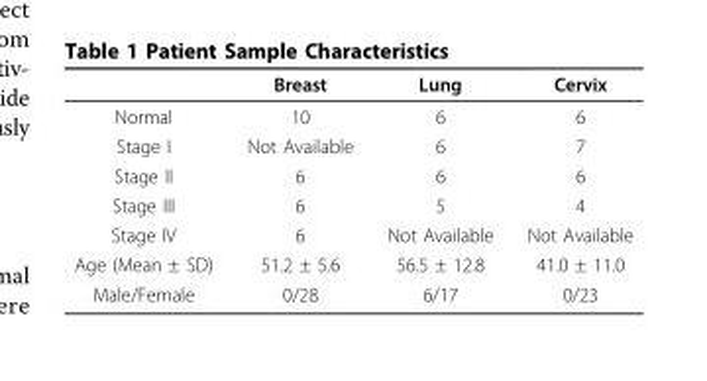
<table><thead><tr><td></td><td>Breast</td><td>Lung</td><td>Cervix</td></tr></thead><tbody><tr><td>Normal</td><td>10</td><td>6</td><td>6</td></tr><tr><td>Stage I</td><td>Not Available</td><td>6</td><td>7</td></tr><tr><td>Stage II</td><td>6</td><td>6</td><td>6</td></tr><tr><td>Stage III</td><td>6</td><td>5</td><td>4</td></tr><tr><td>Stage IV</td><td>6</td><td>Not Available</td><td>Not Available</td></tr><tr><td>Age (Mean ± SD)</td><td>51.2 ± 5.6</td><td>56.5 ± 12.8</td><td>41.0 ± 11.0</td></tr><tr><td>Male/Female</td><td>0/28</td><td>6/17</td><td>0/23</td></tr></tbody></table>